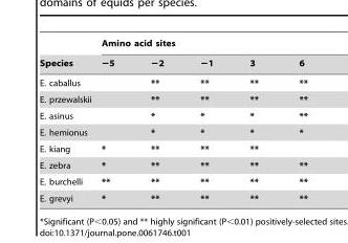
<table><thead><tr><td rowspan="2">Species</td><td colspan="5">Amino acid sites</td></tr><tr><td>−5</td><td>−2</td><td>−1</td><td>3</td><td>6</td></tr></thead><tbody><tr><td>E. caballus</td><td></td><td>**</td><td>**</td><td>**</td><td>**</td></tr><tr><td>E. przewalskii</td><td></td><td>**</td><td>**</td><td>**</td><td>**</td></tr><tr><td>E. asinus</td><td></td><td>*</td><td>*</td><td>*</td><td>**</td></tr><tr><td>E. hemionus</td><td></td><td>*</td><td>*</td><td>*</td><td>*</td></tr><tr><td>E. kiang</td><td>*</td><td>**</td><td>**</td><td>**</td><td></td></tr><tr><td>E. zebra</td><td>*</td><td>**</td><td>**</td><td>**</td><td>**</td></tr><tr><td>E. burchelli</td><td>**</td><td>**</td><td>**</td><td>**</td><td>**</td></tr><tr><td>E. grevyi</td><td>*</td><td>**</td><td>**</td><td>**</td><td>**</td></tr></tbody></table>